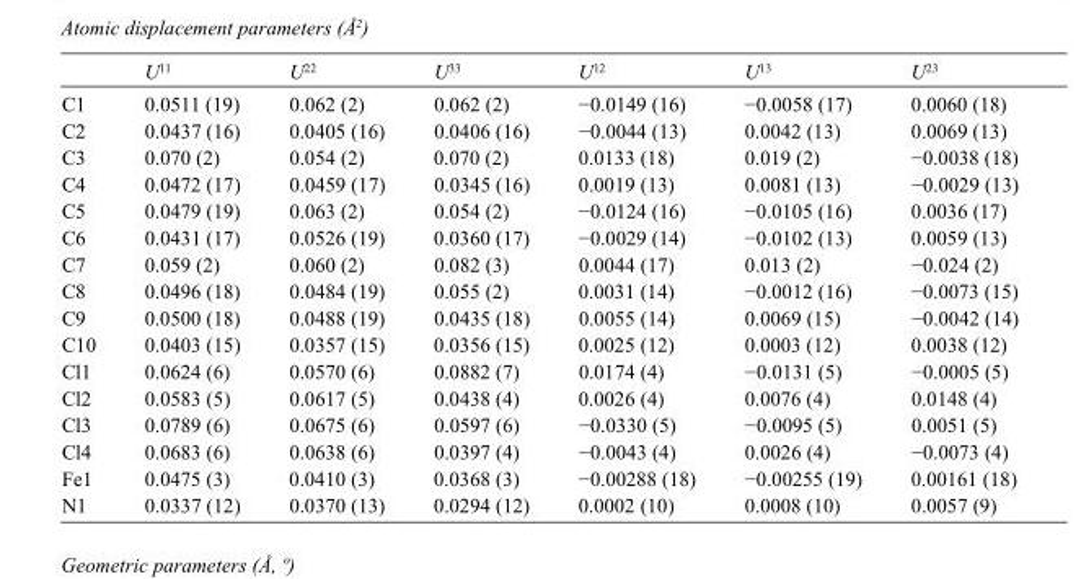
<table><thead><tr><td></td><td>U<sup>11</sup></td><td>U<sup>22</sup></td><td>U<sup>33</sup></td><td>U<sup>12</sup></td><td>U<sup>13</sup></td><td>U<sup>23</sup></td></tr></thead><tbody><tr><td>C1</td><td>0.0511 (19)</td><td>0.062 (2)</td><td>0.062 (2)</td><td>−0.0149 (16)</td><td>−0.0058 (17)</td><td>0.0060 (18)</td></tr><tr><td>C2</td><td>0.0437 (16)</td><td>0.0405 (16)</td><td>0.0406 (16)</td><td>−0.0044 (13)</td><td>0.0042 (13)</td><td>0.0069 (13)</td></tr><tr><td>C3</td><td>0.070 (2)</td><td>0.054 (2)</td><td>0.070 (2)</td><td>0.0133 (18)</td><td>0.019 (2)</td><td>−0.0038 (18)</td></tr><tr><td>C4</td><td>0.0472 (17)</td><td>0.0459 (17)</td><td>0.0345 (16)</td><td>0.0019 (13)</td><td>0.0081 (13)</td><td>−0.0029 (13)</td></tr><tr><td>C5</td><td>0.0479 (19)</td><td>0.063 (2)</td><td>0.054 (2)</td><td>−0.0124 (16)</td><td>−0.0105 (16)</td><td>0.0036 (17)</td></tr><tr><td>C6</td><td>0.0431 (17)</td><td>0.0526 (19)</td><td>0.0360 (17)</td><td>−0.0029 (14)</td><td>−0.0102 (13)</td><td>0.0059 (13)</td></tr><tr><td>C7</td><td>0.059 (2)</td><td>0.060 (2)</td><td>0.082 (3)</td><td>0.0044 (17)</td><td>0.013 (2)</td><td>−0.024 (2)</td></tr><tr><td>C8</td><td>0.0496 (18)</td><td>0.0484 (19)</td><td>0.055 (2)</td><td>0.0031 (14)</td><td>−0.0012 (16)</td><td>−0.0073 (15)</td></tr><tr><td>C9</td><td>0.0500 (18)</td><td>0.0488 (19)</td><td>0.0435 (18)</td><td>0.0055 (14)</td><td>0.0069 (15)</td><td>−0.0042 (14)</td></tr><tr><td>C10</td><td>0.0403 (15)</td><td>0.0357 (15)</td><td>0.0356 (15)</td><td>0.0025 (12)</td><td>0.0003 (12)</td><td>0.0038 (12)</td></tr><tr><td>Cl1</td><td>0.0624 (6)</td><td>0.0570 (6)</td><td>0.0882 (7)</td><td>0.0174 (4)</td><td>−0.0131 (5)</td><td>−0.0005 (5)</td></tr><tr><td>Cl2</td><td>0.0583 (5)</td><td>0.0617 (5)</td><td>0.0438 (4)</td><td>0.0026 (4)</td><td>0.0076 (4)</td><td>0.0148 (4)</td></tr><tr><td>Cl3</td><td>0.0789 (6)</td><td>0.0675 (6)</td><td>0.0597 (6)</td><td>−0.0330 (5)</td><td>−0.0095 (5)</td><td>0.0051 (5)</td></tr><tr><td>Cl4</td><td>0.0683 (6)</td><td>0.0638 (6)</td><td>0.0397 (4)</td><td>−0.0043 (4)</td><td>0.0026 (4)</td><td>−0.0073 (4)</td></tr><tr><td>Fe1</td><td>0.0475 (3)</td><td>0.0410 (3)</td><td>0.0368 (3)</td><td>−0.00288 (18)</td><td>−0.00255 (19)</td><td>0.00161 (18)</td></tr><tr><td>N1</td><td>0.0337 (12)</td><td>0.0370 (13)</td><td>0.0294 (12)</td><td>0.0002 (10)</td><td>0.0008 (10)</td><td>0.0057 (9)</td></tr></tbody></table>